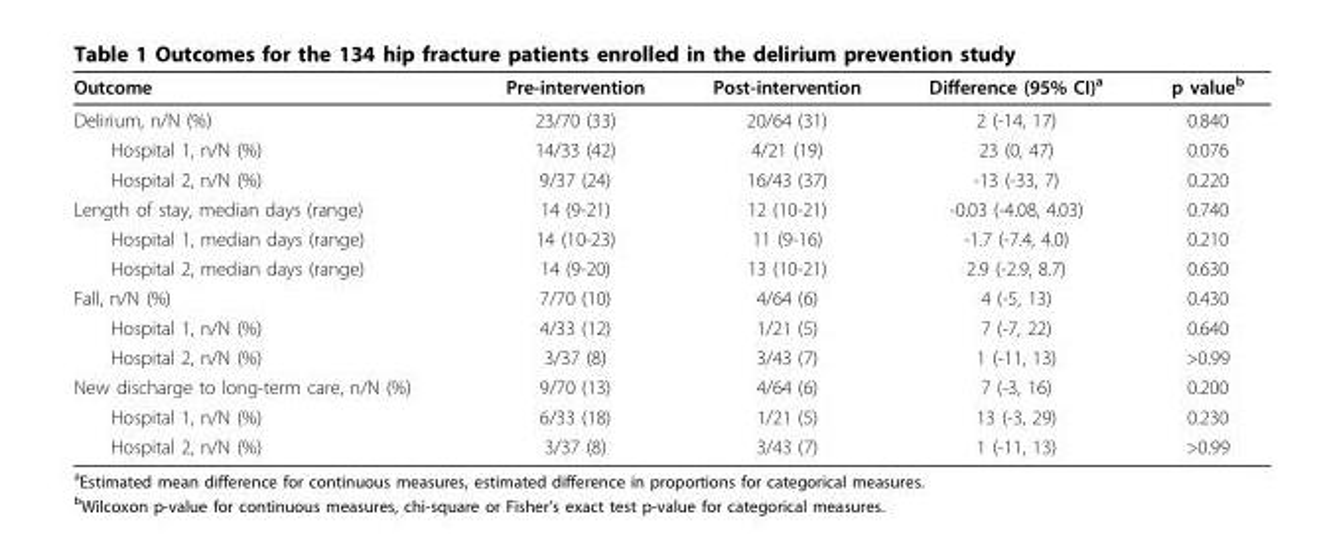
<table><thead><tr><td>Outcome</td><td>Pre-intervention</td><td>Post-intervention</td><td>Difference (95% CI)<sup>a</sup></td><td>p value<sup>b</sup></td></tr></thead><tbody><tr><td>Delirium, n/N (%)</td><td>23/70 (33)</td><td>20/64 (31)</td><td>2 (-14, 17)</td><td>0.840</td></tr><tr><td>Hospital 1, n/N (%)</td><td>14/33 (42)</td><td>4/21 (19)</td><td>23 (0, 47)</td><td>0.076</td></tr><tr><td>Hospital 2, n/N (%)</td><td>9/37 (24)</td><td>16/43 (37)</td><td>-13 (-33, 7)</td><td>0.220</td></tr><tr><td>Length of stay, median days (range)</td><td>14 (9-21)</td><td>12 (10-21)</td><td>-0.03 (-4.08, 4.03)</td><td>0.740</td></tr><tr><td>Hospital 1, median days (range)</td><td>14 (10-23)</td><td>11 (9-16)</td><td>-1.7 (-7.4, 4.0)</td><td>0.210</td></tr><tr><td>Hospital 2, median days (range)</td><td>14 (9-20)</td><td>13 (10-21)</td><td>2.9 (-2.9, 8.7)</td><td>0.630</td></tr><tr><td>Fall, n/N (%)</td><td>7/70 (10)</td><td>4/64 (6)</td><td>4 (-5, 13)</td><td>0.430</td></tr><tr><td>Hospital 1, n/N (%)</td><td>4/33 (12)</td><td>1/21 (5)</td><td>7 (-7, 22)</td><td>0.640</td></tr><tr><td>Hospital 2, n/N (%)</td><td>3/37 (8)</td><td>3/43 (7)</td><td>1 (-11, 13)</td><td>&gt;0.99</td></tr><tr><td>New discharge to long-term care, n/N (%)</td><td>9/70 (13)</td><td>4/64 (6)</td><td>7 (-3, 16)</td><td>0.200</td></tr><tr><td>Hospital 1, n/N (%)</td><td>6/33 (18)</td><td>1/21 (5)</td><td>13 (-3, 29)</td><td>0.230</td></tr><tr><td>Hospital 2, n/N (%)</td><td>3/37 (8)</td><td>3/43 (7)</td><td>1 (-11, 13)</td><td>&gt;0.99</td></tr></tbody></table>